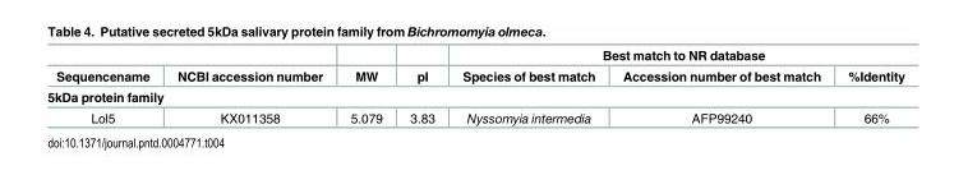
<table><thead><tr><td rowspan="2">Sequencename</td><td rowspan="2">NCBI accession number</td><td rowspan="2">MW</td><td rowspan="2">pI</td><td colspan="3">Best match to NR database</td></tr><tr><td>Species of best match</td><td>Accession number of best match</td><td>%Identity</td></tr><tr><td colspan="7">5kDa protein family</td></tr></thead><tbody><tr><td>Lol5</td><td>KX011358</td><td>5.079</td><td>3.83</td><td>Nyssomyia intermedia</td><td>AFP99240</td><td>66%</td></tr></tbody></table>